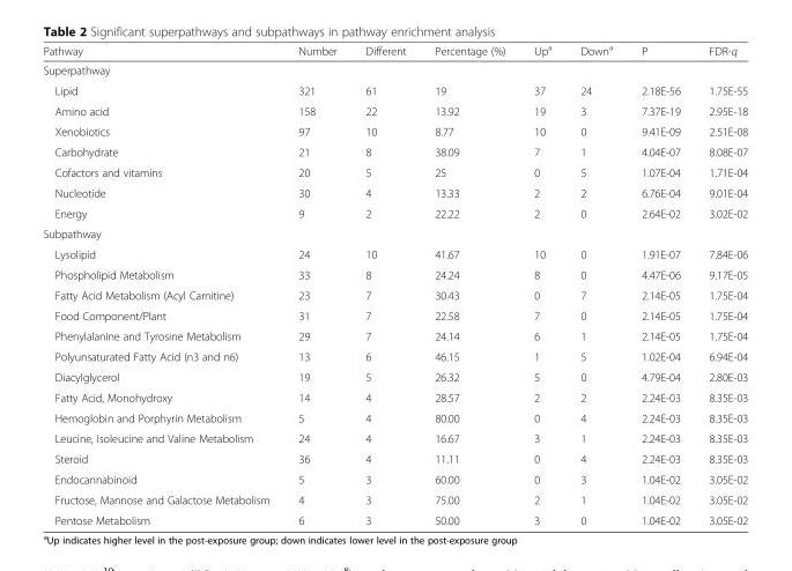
<table><thead><tr><td>Pathway</td><td>Number</td><td>Different</td><td>Percentage (%)</td><td>Up<sup>a</sup></td><td>Down<sup>a</sup></td><td>P</td><td>FDR-q</td></tr></thead><tbody><tr><td colspan="8">Superpathway</td></tr><tr><td>Lipid</td><td>321</td><td>61</td><td>19</td><td>37</td><td>24</td><td>2.18E-56</td><td>1.75E-55</td></tr><tr><td>Amino acid</td><td>158</td><td>22</td><td>13.92</td><td>19</td><td>3</td><td>7.37E-19</td><td>2.95E-18</td></tr><tr><td>Xenobiotics</td><td>97</td><td>10</td><td>8.77</td><td>10</td><td>0</td><td>9.41E-09</td><td>2.51E-08</td></tr><tr><td>Carbohydrate</td><td>21</td><td>8</td><td>38.09</td><td>7</td><td>1</td><td>4.04E-07</td><td>8.08E-07</td></tr><tr><td>Cofactors and vitamins</td><td>20</td><td>5</td><td>25</td><td>0</td><td>5</td><td>1.07E-04</td><td>1.71E-04</td></tr><tr><td>Nucleotide</td><td>30</td><td>4</td><td>13.33</td><td>2</td><td>2</td><td>6.76E-04</td><td>9.01E-04</td></tr><tr><td>Energy</td><td>9</td><td>2</td><td>22.22</td><td>2</td><td>0</td><td>2.64E-02</td><td>3.02E-02</td></tr><tr><td colspan="8">Subpathway</td></tr><tr><td>Lysolipid</td><td>24</td><td>10</td><td>41.67</td><td>10</td><td>0</td><td>1.91E-07</td><td>7.84E-06</td></tr><tr><td>Phospholipid Metabolism</td><td>33</td><td>8</td><td>24.24</td><td>8</td><td>0</td><td>4.47E-06</td><td>9.17E-05</td></tr><tr><td>Fatty Acid Metabolism (Acyl Carnitine)</td><td>23</td><td>7</td><td>30.43</td><td>0</td><td>7</td><td>2.14E-05</td><td>1.75E-04</td></tr><tr><td>Food Component/Plant</td><td>31</td><td>7</td><td>22.58</td><td>7</td><td>0</td><td>2.14E-05</td><td>1.75E-04</td></tr><tr><td>Phenylalanine and Tyrosine Metabolism</td><td>29</td><td>7</td><td>24.14</td><td>6</td><td>1</td><td>2.14E-05</td><td>1.75E-04</td></tr><tr><td>Polyunsaturated Fatty Acid (n3 and n6)</td><td>13</td><td>6</td><td>46.15</td><td>1</td><td>5</td><td>1.02E-04</td><td>6.94E-04</td></tr><tr><td>Diacylglycerol</td><td>19</td><td>5</td><td>26.32</td><td>5</td><td>0</td><td>4.79E-04</td><td>2.80E-03</td></tr><tr><td>Fatty Acid, Monohydroxy</td><td>14</td><td>4</td><td>28.57</td><td>2</td><td>2</td><td>2.24E-03</td><td>8.35E-03</td></tr><tr><td>Hemoglobin and Porphyrin Metabolism</td><td>5</td><td>4</td><td>80.00</td><td>0</td><td>4</td><td>2.24E-03</td><td>8.35E-03</td></tr><tr><td>Leucine, Isoleucine and Valine Metabolism</td><td>24</td><td>4</td><td>16.67</td><td>3</td><td>1</td><td>2.24E-03</td><td>8.35E-03</td></tr><tr><td>Steroid</td><td>36</td><td>4</td><td>11.11</td><td>0</td><td>4</td><td>2.24E-03</td><td>8.35E-03</td></tr><tr><td>Endocannabinoid</td><td>5</td><td>3</td><td>60.00</td><td>0</td><td>3</td><td>1.04E-02</td><td>3.05E-02</td></tr><tr><td>Fructose, Mannose and Galactose Metabolism</td><td>4</td><td>3</td><td>75.00</td><td>2</td><td>1</td><td>1.04E-02</td><td>3.05E-02</td></tr><tr><td>Pentose Metabolism</td><td>6</td><td>3</td><td>50.00</td><td>3</td><td>0</td><td>1.04E-02</td><td>3.05E-02</td></tr></tbody></table>